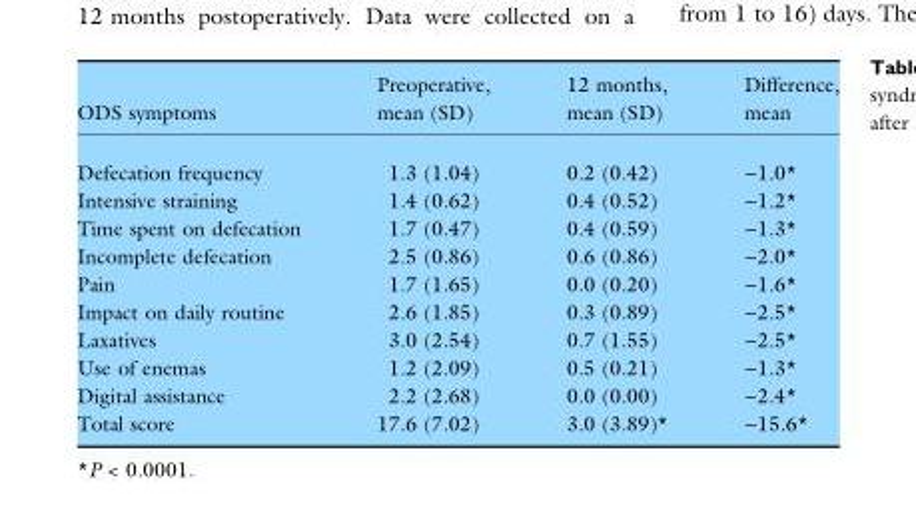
<table><thead><tr><td>ODS symptoms</td><td>Preoperative, mean (SD)</td><td>12 months, mean (SD)</td><td>Difference, mean</td></tr></thead><tbody><tr><td>Defecation frequency</td><td>1.3 (1.04)</td><td>0.2 (0.42)</td><td>−1.0*</td></tr><tr><td>Intensive straining</td><td>1.4 (0.62)</td><td>0.4 (0.52)</td><td>−1.2*</td></tr><tr><td>Time spent on defecation</td><td>1.7 (0.47)</td><td>0.4 (0.59)</td><td>−1.3*</td></tr><tr><td>Incomplete defecation</td><td>2.5 (0.86)</td><td>0.6 (0.86)</td><td>−2.0*</td></tr><tr><td>Pain</td><td>1.7 (1.65)</td><td>0.0 (0.20)</td><td>−1.6*</td></tr><tr><td>Impact on daily routine</td><td>2.6 (1.85)</td><td>0.3 (0.89)</td><td>−2.5*</td></tr><tr><td>Laxatives</td><td>3.0 (2.54)</td><td>0.7 (1.55)</td><td>−2.5*</td></tr><tr><td>Use of enemas</td><td>1.2 (2.09)</td><td>0.5 (0.21)</td><td>−1.3*</td></tr><tr><td>Digital assistance</td><td>2.2 (2.68)</td><td>0.0 (0.00)</td><td>−2.4*</td></tr><tr><td>Total score</td><td>17.6 (7.02)</td><td>3.0 (3.89)*</td><td>−15.6*</td></tr></tbody></table>